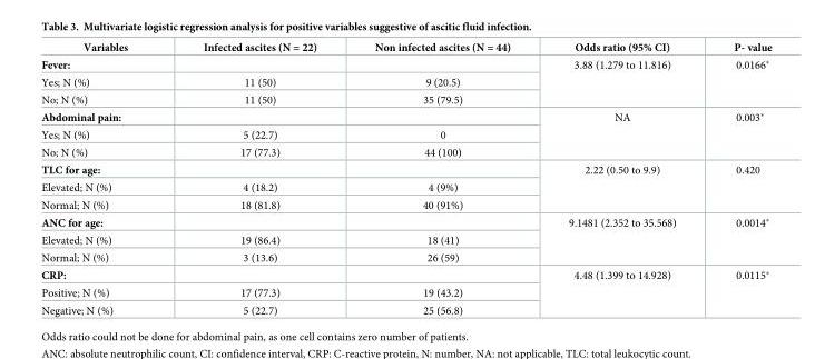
<table><thead><tr><td>Variables</td><td>Infected ascites (N = 22)</td><td>Non infected ascites (N = 44)</td><td>Odds ratio (95% CI)</td><td>P- value</td></tr></thead><tbody><tr><td colspan="3">Fever:</td><td rowspan="3">3.88 (1.279 to 11.816)</td><td rowspan="3">0.0166*</td></tr><tr><td>Yes; N (%)</td><td>11 (50)</td><td>9 (20.5)</td></tr><tr><td>No; N (%)</td><td>11 (50)</td><td>35 (79.5)</td></tr><tr><td colspan="3">Abdominal pain:</td><td rowspan="3">NA</td><td rowspan="3">0.003*</td></tr><tr><td>Yes; N (%)</td><td>5 (22.7)</td><td>0</td></tr><tr><td>No; N (%)</td><td>17 (77.3)</td><td>44 (100)</td></tr><tr><td colspan="3">TLC for age:</td><td rowspan="3">2.22 (0.50 to 9.9)</td><td rowspan="3">0.420</td></tr><tr><td>Elevated; N (%)</td><td>4 (18.2)</td><td>4 (9%)</td></tr><tr><td>Normal; N (%)</td><td>18 (81.8)</td><td>40 (91%)</td></tr><tr><td colspan="3">ANC for age:</td><td rowspan="3">9.1481 (2.352 to 35.568)</td><td rowspan="3">0.0014*</td></tr><tr><td>Elevated; N (%)</td><td>19 (86.4)</td><td>18 (41)</td></tr><tr><td>Normal; N (%)</td><td>3 (13.6)</td><td>26 (59)</td></tr><tr><td colspan="3">CRP:</td><td rowspan="3">4.48 (1.399 to 14.928)</td><td rowspan="3">0.0115*</td></tr><tr><td>Positive; N (%)</td><td>17 (77.3)</td><td>19 (43.2)</td></tr><tr><td>Negative; N (%)</td><td>5 (22.7)</td><td>25 (56.8)</td></tr></tbody></table>